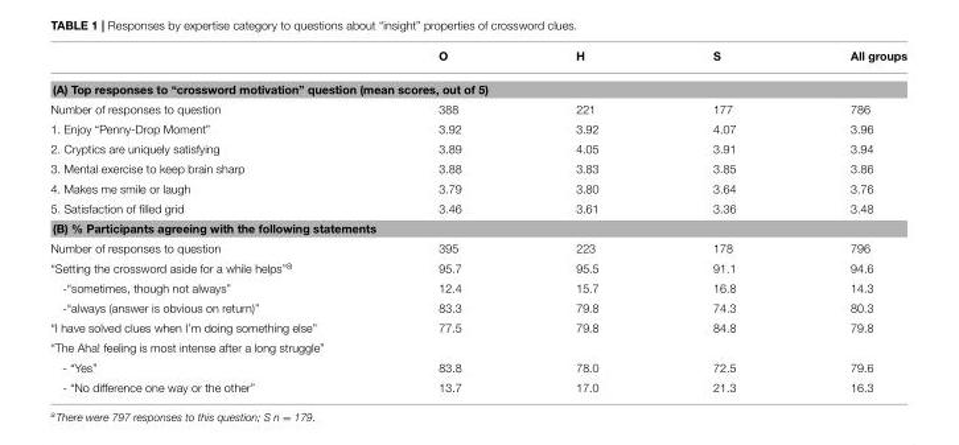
<table><thead><tr><td></td><td>O</td><td>H</td><td>S</td><td>All groups</td></tr></thead><tbody><tr><td colspan="5">(A) Top responses to “crossword motivation” question (mean scores, out of 5)</td></tr><tr><td>Number of responses to question</td><td>388</td><td>221</td><td>177</td><td>786</td></tr><tr><td>1. Enjoy “Penny-Drop Moment”</td><td>3.92</td><td>3.92</td><td>4.07</td><td>3.96</td></tr><tr><td>2. Cryptics are uniquely satisfying</td><td>3.89</td><td>4.05</td><td>3.91</td><td>3.94</td></tr><tr><td>3. Mental exercise to keep brain sharp</td><td>3.88</td><td>3.83</td><td>3.85</td><td>3.86</td></tr><tr><td>4. Makes me smile or laugh</td><td>3.79</td><td>3.80</td><td>3.64</td><td>3.76</td></tr><tr><td>5. Satisfaction of filled grid</td><td>3.46</td><td>3.61</td><td>3.36</td><td>3.48</td></tr><tr><td colspan="5">(B) % Participants agreeing with the following statements</td></tr><tr><td>Number of responses to question</td><td>395</td><td>223</td><td>178</td><td>796</td></tr><tr><td>“Setting the crossword aside for a while helps”<sup>a</sup></td><td>95.7</td><td>95.5</td><td>91.1</td><td>94.6</td></tr><tr><td>-“sometimes, though not always”</td><td>12.4</td><td>15.7</td><td>16.8</td><td>14.3</td></tr><tr><td>-“always (answer is obvious on return)”</td><td>83.3</td><td>79.8</td><td>74.3</td><td>80.3</td></tr><tr><td>“I have solved clues when I’m doing something else”</td><td>77.5</td><td>79.8</td><td>84.8</td><td>79.8</td></tr><tr><td colspan="5">“The Aha! feeling is most intense after a long struggle”</td></tr><tr><td>- “Yes”</td><td>83.8</td><td>78.0</td><td>72.5</td><td>79.6</td></tr><tr><td>- “No difference one way or the other”</td><td>13.7</td><td>17.0</td><td>21.3</td><td>16.3</td></tr></tbody></table>